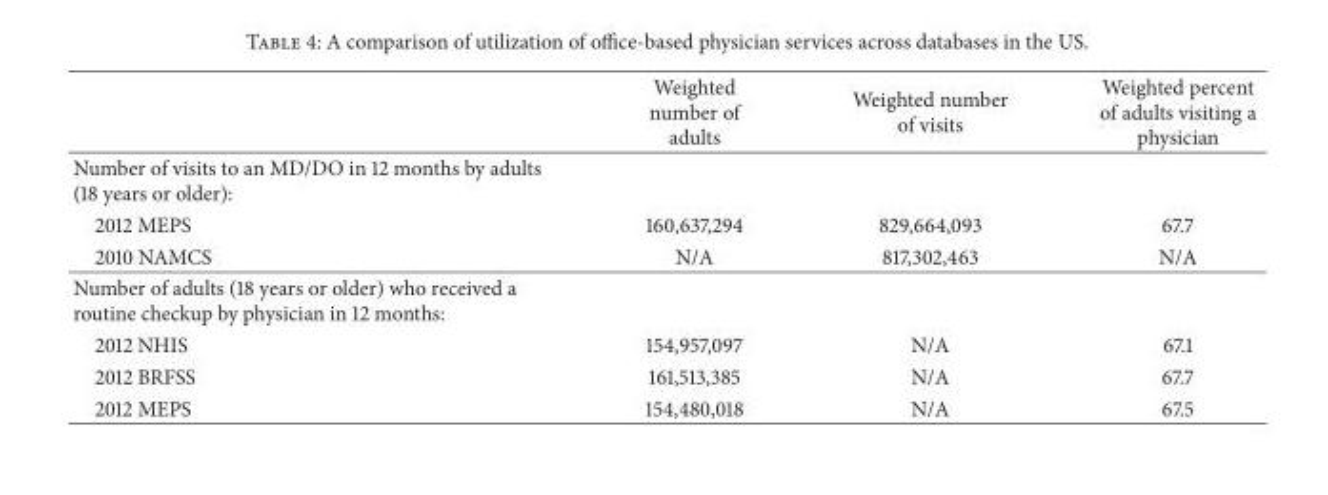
<table><thead><tr><td></td><td>Weighted number of adults</td><td>Weighted number of visits</td><td>Weighted percent of adults visiting a physician</td></tr></thead><tbody><tr><td colspan="4">Number of visits to an MD/DO in 12 months by adults (18 years or older):</td></tr><tr><td>2012 MEPS</td><td>160,637,294</td><td>829,664,093</td><td>67.7</td></tr><tr><td>2010 NAMCS</td><td>N/A</td><td>817,302,463</td><td>N/A</td></tr><tr><td colspan="4">Number of adults (18 years or older) who received a routine checkup by physician in 12 months:</td></tr><tr><td>2012 NHIS</td><td>154,957,097</td><td>N/A</td><td>67.1</td></tr><tr><td>2012 BRFSS</td><td>161,513,385</td><td>N/A</td><td>67.7</td></tr><tr><td>2012 MEPS</td><td>154,480,018</td><td>N/A</td><td>67.5</td></tr></tbody></table>